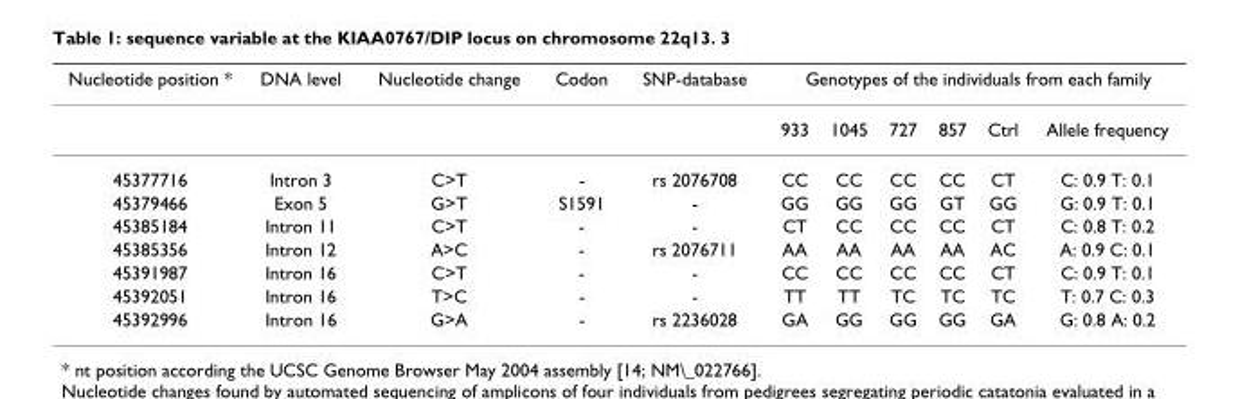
<table><thead><tr><td rowspan="2">Nucleotide position *</td><td rowspan="2">DNA level</td><td rowspan="2">Nucleotide change</td><td rowspan="2">Codon</td><td rowspan="2">SNP-database</td><td colspan="6">Genotypes of the individuals from each family</td></tr><tr><td>933</td><td>1045</td><td>727</td><td>857</td><td>Ctrl</td><td>Allele frequency</td></tr></thead><tbody><tr><td>45377716</td><td>Intron 3</td><td>C&gt;T</td><td>-</td><td>rs 2076708</td><td>CC</td><td>CC</td><td>CC</td><td>CC</td><td>CT</td><td>C: 0.9 T: 0.1</td></tr><tr><td>45379466</td><td>Exon 5</td><td>G&gt;T</td><td>S1591</td><td>-</td><td>GG</td><td>GG</td><td>GG</td><td>GT</td><td>GG</td><td>G: 0.9 T: 0.1</td></tr><tr><td>45385184</td><td>Intron 11</td><td>C&gt;T</td><td>-</td><td>-</td><td>CT</td><td>CC</td><td>CC</td><td>CC</td><td>CT</td><td>C: 0.8 T: 0.2</td></tr><tr><td>45385356</td><td>Intron 12</td><td>A&gt;C</td><td>-</td><td>rs 2076711</td><td>AA</td><td>AA</td><td>AA</td><td>AA</td><td>AC</td><td>A: 0.9 C: 0.1</td></tr><tr><td>45391987</td><td>Intron 16</td><td>C&gt;T</td><td>-</td><td>-</td><td>CC</td><td>CC</td><td>CC</td><td>CC</td><td>CT</td><td>C: 0.9 T: 0.1</td></tr><tr><td>45392051</td><td>Intron 16</td><td>T&gt;C</td><td>-</td><td>-</td><td>TT</td><td>TT</td><td>TC</td><td>TC</td><td>TC</td><td>T: 0.7 C: 0.3</td></tr><tr><td>45392996</td><td>Intron 16</td><td>G&gt;A</td><td>-</td><td>rs 2236028</td><td>GA</td><td>GG</td><td>GG</td><td>GG</td><td>GA</td><td>G: 0.8 A: 0.2</td></tr></tbody></table>